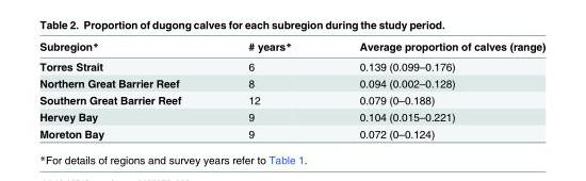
<table><thead><tr><td>Subregion*</td><td># years*</td><td>Average proportion of calves (range)</td></tr></thead><tbody><tr><td>Torres Strait</td><td>6</td><td>0.139 (0.099–0.176)</td></tr><tr><td>Northern Great Barrier Reef</td><td>8</td><td>0.094 (0.002–0.128)</td></tr><tr><td>Southern Great Barrier Reef</td><td>12</td><td>0.079 (0–0.188)</td></tr><tr><td>Hervey Bay</td><td>9</td><td>0.104 (0.015–0.221)</td></tr><tr><td>Moreton Bay</td><td>9</td><td>0.072 (0–0.124)</td></tr></tbody></table>